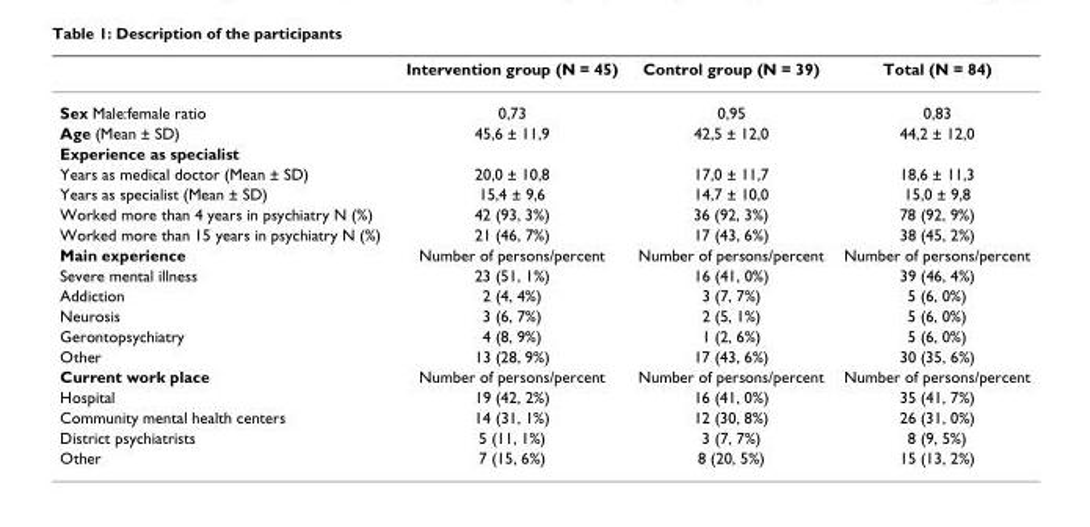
<table><thead><tr><td></td><td>Intervention group (N = 45)</td><td>Control group (N = 39)</td><td>Total (N = 84)</td></tr></thead><tbody><tr><td>Sex Male:female ratio</td><td>0,73</td><td>0,95</td><td>0,83</td></tr><tr><td>Age (Mean ± SD)</td><td>45,6 ± 11,9</td><td>42,5 ± 12,0</td><td>44,2 ± 12,0</td></tr><tr><td colspan="4">Experience as specialist</td></tr><tr><td>Years as medical doctor (Mean ± SD)</td><td>20,0 ± 10,8</td><td>17,0 ± 11,7</td><td>18,6 ± 11,3</td></tr><tr><td>Years as specialist (Mean ± SD)</td><td>15,4 ± 9,6</td><td>14,7 ± 10,0</td><td>15,0 ± 9,8</td></tr><tr><td>Worked more than 4 years in psychiatry N (%)</td><td>42 (93, 3%)</td><td>36 (92, 3%)</td><td>78 (92, 9%)</td></tr><tr><td>Worked more than 15 years in psychiatry N (%)</td><td>21 (46, 7%)</td><td>17 (43, 6%)</td><td>38 (45, 2%)</td></tr><tr><td>Main experience</td><td>Number of persons/percent</td><td>Number of persons/percent</td><td>Number of persons/percent</td></tr><tr><td>Severe mental illness</td><td>23 (51, 1%)</td><td>16 (41, 0%)</td><td>39 (46, 4%)</td></tr><tr><td>Addiction</td><td>2 (4, 4%)</td><td>3 (7, 7%)</td><td>5 (6, 0%)</td></tr><tr><td>Neurosis</td><td>3 (6, 7%)</td><td>2 (5, 1%)</td><td>5 (6, 0%)</td></tr><tr><td>Gerontopsychiatry</td><td>4 (8, 9%)</td><td>1 (2, 6%)</td><td>5 (6, 0%)</td></tr><tr><td>Other</td><td>13 (28, 9%)</td><td>17 (43, 6%)</td><td>30 (35, 6%)</td></tr><tr><td>Current work place</td><td>Number of persons/percent</td><td>Number of persons/percent</td><td>Number of persons/percent</td></tr><tr><td>Hospital</td><td>19 (42, 2%)</td><td>16 (41, 0%)</td><td>35 (41, 7%)</td></tr><tr><td>Community mental health centers</td><td>14 (31, 1%)</td><td>12 (30, 8%)</td><td>26 (31, 0%)</td></tr><tr><td>District psychiatrists</td><td>5 (11, 1%)</td><td>3 (7, 7%)</td><td>8 (9, 5%)</td></tr><tr><td>Other</td><td>7 (15, 6%)</td><td>8 (20, 5%)</td><td>15 (13, 2%)</td></tr></tbody></table>